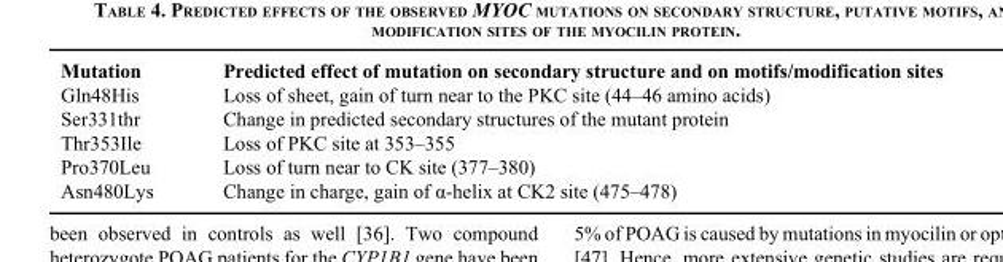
<table><thead><tr><td>Mutation</td><td>Predicted effect of mutation on secondary structure and on motifs/modification sites</td></tr></thead><tbody><tr><td>Gln48His</td><td>Loss of sheet, gain of turn near to the PKC site (44–46 amino acids)</td></tr><tr><td>Ser331thr</td><td>Change in predicted secondary structures of the mutant protein</td></tr><tr><td>Thr353Ile</td><td>Loss of PKC site at 353–355</td></tr><tr><td>Pro370Leu</td><td>Loss of turn near to CK site (377–380)</td></tr><tr><td>Asn480Lys</td><td>Change in charge, gain of α-helix at CK2 site (475–478)</td></tr></tbody></table>